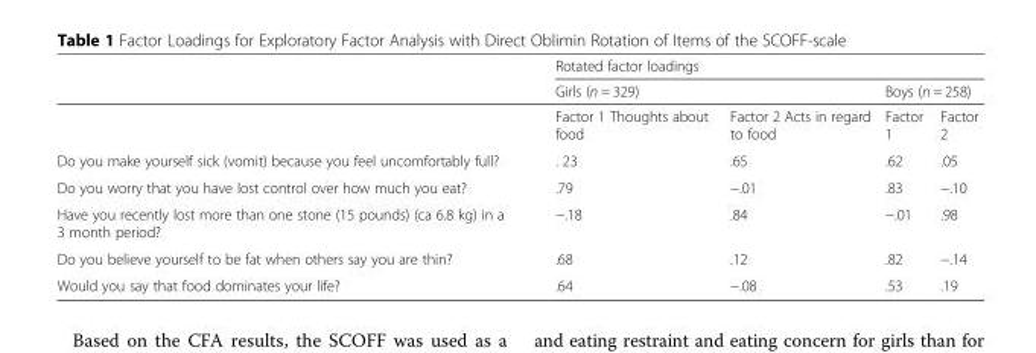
<table><thead><tr><td rowspan="3"></td><td colspan="4">Rotated factor loadings</td></tr><tr><td colspan="2">Girls (n = 329)</td><td colspan="2">Boys (n = 258)</td></tr><tr><td>Factor 1 Thoughts about food</td><td>Factor 2 Acts in regard to food</td><td>Factor 1</td><td>Factor 2</td></tr></thead><tbody><tr><td>Do you make yourself sick (vomit) because you feel uncomfortably full?</td><td>. 23</td><td>.65</td><td>.62</td><td>.05</td></tr><tr><td>Do you worry that you have lost control over how much you eat?</td><td>.79</td><td>−.01</td><td>.83</td><td>−.10</td></tr><tr><td>Have you recently lost more than one stone (15 pounds) (ca 6.8 kg) in a 3 month period?</td><td>−.18</td><td>.84</td><td>−.01</td><td>.98</td></tr><tr><td>Do you believe yourself to be fat when others say you are thin?</td><td>.68</td><td>.12</td><td>.82</td><td>−.14</td></tr><tr><td>Would you say that food dominates your life?</td><td>.64</td><td>−.08</td><td>.53</td><td>.19</td></tr></tbody></table>